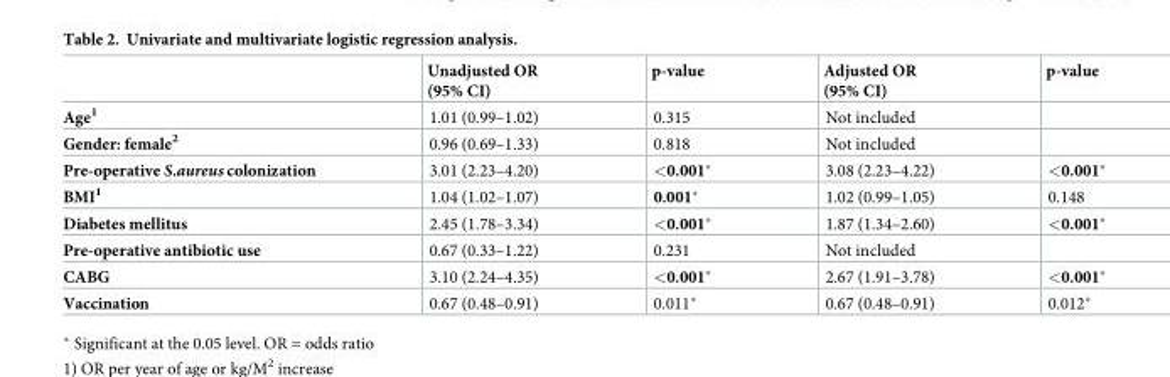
<table><thead><tr><td></td><td>Unadjusted OR (95% CI)</td><td>p-value</td><td>Adjusted OR (95% CI)</td><td>p-value</td></tr></thead><tbody><tr><td>Age<sup>1</sup></td><td>1.01 (0.99–1.02)</td><td>0.315</td><td>Not included</td><td></td></tr><tr><td>Gender: female<sup>2</sup></td><td>0.96 (0.69–1.33)</td><td>0.818</td><td>Not included</td><td></td></tr><tr><td>Pre-operative S.aureus colonization</td><td>3.01 (2.23–4.20)</td><td>&lt;0.001*</td><td>3.08 (2.23–4.22)</td><td>&lt;0.001*</td></tr><tr><td>BMI<sup>1</sup></td><td>1.04 (1.02–1.07)</td><td>0.001*</td><td>1.02 (0.99–1.05)</td><td>0.148</td></tr><tr><td>Diabetes mellitus</td><td>2.45 (1.78–3.34)</td><td>&lt;0.001*</td><td>1.87 (1.34–2.60)</td><td>&lt;0.001*</td></tr><tr><td>Pre-operative antibiotic use</td><td>0.67 (0.33–1.22)</td><td>0.231</td><td>Not included</td><td></td></tr><tr><td>CABG</td><td>3.10 (2.24–4.35)</td><td>&lt;0.001*</td><td>2.67 (1.91–3.78)</td><td>&lt;0.001*</td></tr><tr><td>Vaccination</td><td>0.67 (0.48–0.91)</td><td>0.011*</td><td>0.67 (0.48–0.91)</td><td>0.012*</td></tr></tbody></table>